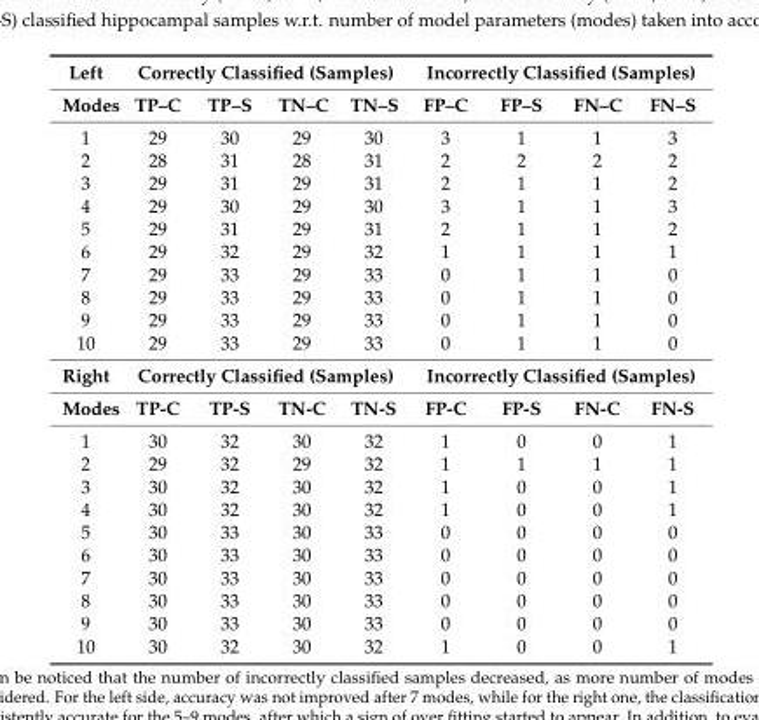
<table><tbody><tr><td>Left</td><td colspan="4">Correctly Classified (Samples)</td><td colspan="4">Incorrectly Classified (Samples)</td></tr><tr><td>Modes</td><td>TP–C</td><td>TP–S</td><td>TN–C</td><td>TN–S</td><td>FP–C</td><td>FP–S</td><td>FN–C</td><td>FN–S</td></tr><tr><td>1</td><td>29</td><td>30</td><td>29</td><td>30</td><td>3</td><td>1</td><td>1</td><td>3</td></tr><tr><td>2</td><td>28</td><td>31</td><td>28</td><td>31</td><td>2</td><td>2</td><td>2</td><td>2</td></tr><tr><td>3</td><td>29</td><td>31</td><td>29</td><td>31</td><td>2</td><td>1</td><td>1</td><td>2</td></tr><tr><td>4</td><td>29</td><td>30</td><td>29</td><td>30</td><td>3</td><td>1</td><td>1</td><td>3</td></tr><tr><td>5</td><td>29</td><td>31</td><td>29</td><td>31</td><td>2</td><td>1</td><td>1</td><td>2</td></tr><tr><td>6</td><td>29</td><td>32</td><td>29</td><td>32</td><td>1</td><td>1</td><td>1</td><td>1</td></tr><tr><td>7</td><td>29</td><td>33</td><td>29</td><td>33</td><td>0</td><td>1</td><td>1</td><td>0</td></tr><tr><td>8</td><td>29</td><td>33</td><td>29</td><td>33</td><td>0</td><td>1</td><td>1</td><td>0</td></tr><tr><td>9</td><td>29</td><td>33</td><td>29</td><td>33</td><td>0</td><td>1</td><td>1</td><td>0</td></tr><tr><td>10</td><td>29</td><td>33</td><td>29</td><td>33</td><td>0</td><td>1</td><td>1</td><td>0</td></tr><tr><td>Right</td><td colspan="4">Correctly Classified (Samples)</td><td colspan="4">Incorrectly Classified (Samples)</td></tr><tr><td>Modes</td><td>TP-C</td><td>TP-S</td><td>TN-C</td><td>TN-S</td><td>FP-C</td><td>FP-S</td><td>FN-C</td><td>FN-S</td></tr><tr><td>1</td><td>30</td><td>32</td><td>30</td><td>32</td><td>1</td><td>0</td><td>0</td><td>1</td></tr><tr><td>2</td><td>29</td><td>32</td><td>29</td><td>32</td><td>1</td><td>1</td><td>1</td><td>1</td></tr><tr><td>3</td><td>30</td><td>32</td><td>30</td><td>32</td><td>1</td><td>0</td><td>0</td><td>1</td></tr><tr><td>4</td><td>30</td><td>32</td><td>30</td><td>32</td><td>1</td><td>0</td><td>0</td><td>1</td></tr><tr><td>5</td><td>30</td><td>33</td><td>30</td><td>33</td><td>0</td><td>0</td><td>0</td><td>0</td></tr><tr><td>6</td><td>30</td><td>33</td><td>30</td><td>33</td><td>0</td><td>0</td><td>0</td><td>0</td></tr><tr><td>7</td><td>30</td><td>33</td><td>30</td><td>33</td><td>0</td><td>0</td><td>0</td><td>0</td></tr><tr><td>8</td><td>30</td><td>33</td><td>30</td><td>33</td><td>0</td><td>0</td><td>0</td><td>0</td></tr><tr><td>9</td><td>30</td><td>33</td><td>30</td><td>33</td><td>0</td><td>0</td><td>0</td><td>0</td></tr><tr><td>10</td><td>30</td><td>32</td><td>30</td><td>32</td><td>1</td><td>0</td><td>0</td><td>1</td></tr></tbody></table>